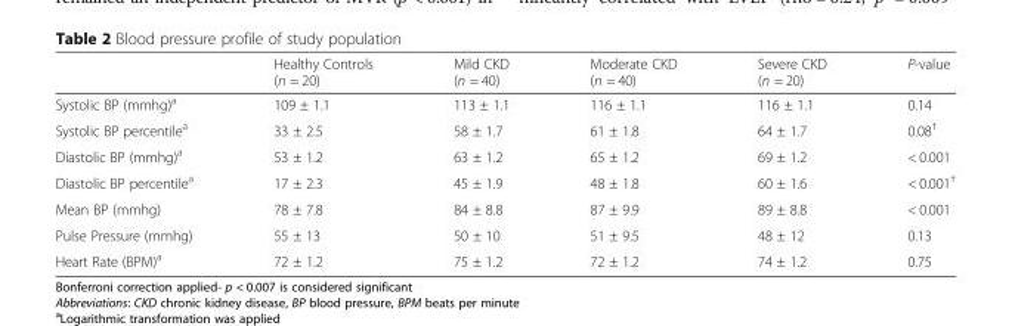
<table><thead><tr><td></td><td>Healthy Controls (n = 20)</td><td>Mild CKD (n = 40)</td><td>Moderate CKD (n = 40)</td><td>Severe CKD (n = 20)</td><td>P-value</td></tr></thead><tbody><tr><td>Systolic BP (mmhg)<sup>a</sup></td><td>109 ± 1.1</td><td>113 ± 1.1</td><td>116 ± 1.1</td><td>116 ± 1.1</td><td>0.14</td></tr><tr><td>Systolic BP percentile<sup>a</sup></td><td>33 ± 2.5</td><td>58 ± 1.7</td><td>61 ± 1.8</td><td>64 ± 1.7</td><td>0.08<sup>†</sup></td></tr><tr><td>Diastolic BP (mmhg)<sup>a</sup></td><td>53 ± 1.2</td><td>63 ± 1.2</td><td>65 ± 1.2</td><td>69 ± 1.2</td><td>&lt; 0.001</td></tr><tr><td>Diastolic BP percentile<sup>a</sup></td><td>17 ± 2.3</td><td>45 ± 1.9</td><td>48 ± 1.8</td><td>60 ± 1.6</td><td>&lt; 0.001<sup>†</sup></td></tr><tr><td>Mean BP (mmhg)</td><td>78 ± 7.8</td><td>84 ± 8.8</td><td>87 ± 9.9</td><td>89 ± 8.8</td><td>&lt; 0.001</td></tr><tr><td>Pulse Pressure (mmhg)</td><td>55 ± 13</td><td>50 ± 10</td><td>51 ± 9.5</td><td>48 ± 12</td><td>0.13</td></tr><tr><td>Heart Rate (BPM)<sup>a</sup></td><td>72 ± 1.2</td><td>75 ± 1.2</td><td>72 ± 1.2</td><td>74 ± 1.2</td><td>0.75</td></tr></tbody></table>